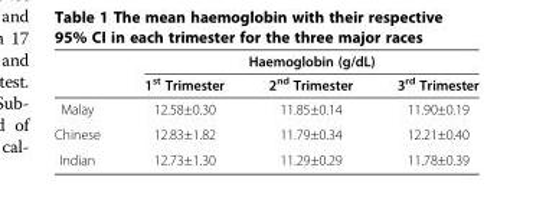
<table><thead><tr><td rowspan="2"></td><td colspan="3">Haemoglobin (g/dL)</td></tr><tr><td>1<sup>st</sup> Trimester</td><td>2<sup>nd</sup> Trimester</td><td>3<sup>rd</sup> Trimester</td></tr></thead><tbody><tr><td>Malay</td><td>12.58±0.30</td><td>11.85±0.14</td><td>11.90±0.19</td></tr><tr><td>Chinese</td><td>12.83±1.82</td><td>11.79±0.34</td><td>12.21±0.40</td></tr><tr><td>Indian</td><td>12.73±1.30</td><td>11.29±0.29</td><td>11.78±0.39</td></tr></tbody></table>